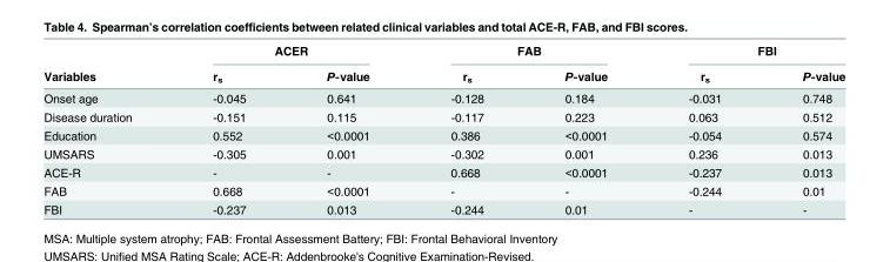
<table><thead><tr><td rowspan="2">Variables</td><td colspan="2">ACER</td><td colspan="2">FAB</td><td colspan="2">FBI</td></tr><tr><td>r<sub>s</sub></td><td>P-value</td><td>r<sub>s</sub></td><td>P-value</td><td>r<sub>s</sub></td><td>P-value</td></tr></thead><tbody><tr><td>Onset age</td><td>-0.045</td><td>0.641</td><td>-0.128</td><td>0.184</td><td>-0.031</td><td>0.748</td></tr><tr><td>Disease duration</td><td>-0.151</td><td>0.115</td><td>-0.117</td><td>0.223</td><td>0.063</td><td>0.512</td></tr><tr><td>Education</td><td>0.552</td><td>&lt;0.0001</td><td>0.386</td><td>&lt;0.0001</td><td>-0.054</td><td>0.574</td></tr><tr><td>UMSARS</td><td>-0.305</td><td>0.001</td><td>-0.302</td><td>0.001</td><td>0.236</td><td>0.013</td></tr><tr><td>ACE-R</td><td>-</td><td>-</td><td>0.668</td><td>&lt;0.0001</td><td>-0.237</td><td>0.013</td></tr><tr><td>FAB</td><td>0.668</td><td>&lt;0.0001</td><td>-</td><td>-</td><td>-0.244</td><td>0.01</td></tr><tr><td>FBI</td><td>-0.237</td><td>0.013</td><td>-0.244</td><td>0.01</td><td>-</td><td>-</td></tr></tbody></table>